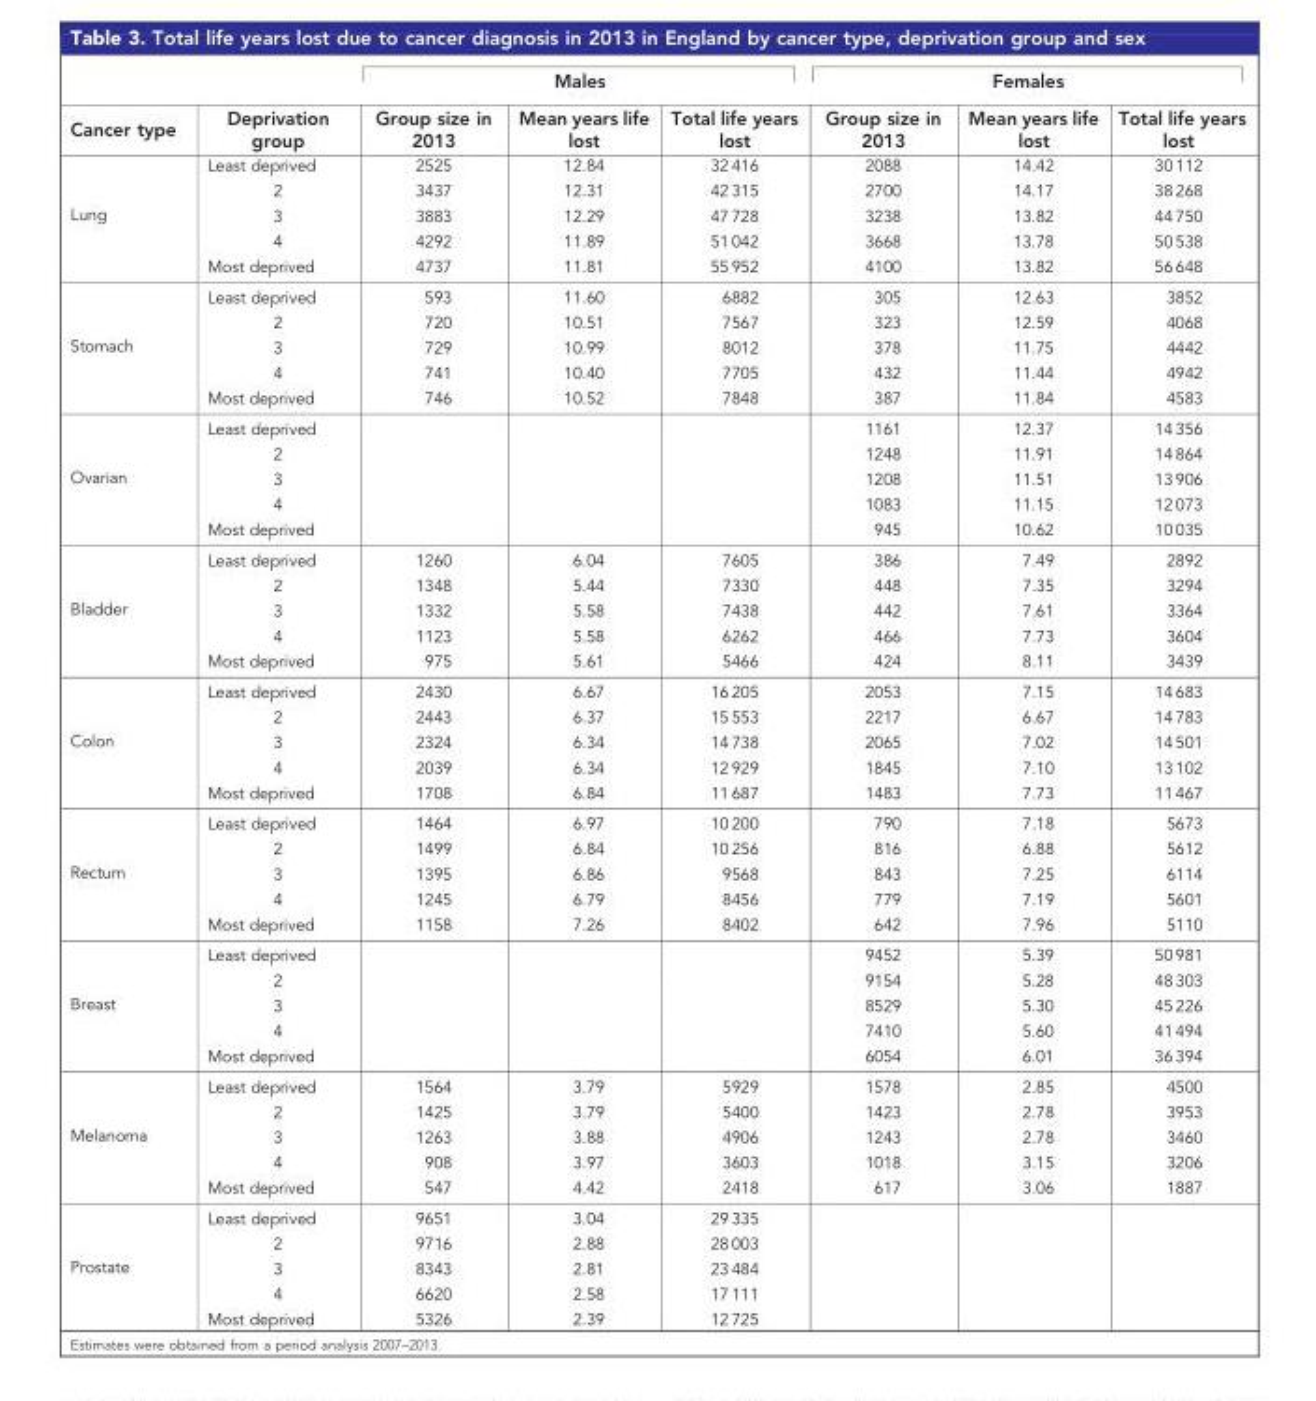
<table><thead><tr><td rowspan="2">Cancer type</td><td rowspan="2">Deprivation group</td><td colspan="3">Males</td><td colspan="3">Females</td></tr><tr><td>Group size in 2013</td><td>Mean years life lost</td><td>Total life years lost</td><td>Group size in 2013</td><td>Mean years life lost</td><td>Total life years lost</td></tr></thead><tbody><tr><td rowspan="5">Lung</td><td>Least deprived</td><td>2525</td><td>12.84</td><td>32 416</td><td>2088</td><td>14.42</td><td>30 112</td></tr><tr><td>2</td><td>3437</td><td>12.31</td><td>42 315</td><td>2700</td><td>14.17</td><td>38 268</td></tr><tr><td>3</td><td>3883</td><td>12.29</td><td>47 728</td><td>3238</td><td>13.82</td><td>44 750</td></tr><tr><td>4</td><td>4292</td><td>11.89</td><td>51 042</td><td>3668</td><td>13.78</td><td>50 538</td></tr><tr><td>Most deprived</td><td>4737</td><td>11.81</td><td>55 952</td><td>4100</td><td>13.82</td><td>56 648</td></tr><tr><td rowspan="5">Stomach</td><td>Least deprived</td><td>593</td><td>11.60</td><td>6882</td><td>305</td><td>12.63</td><td>3852</td></tr><tr><td>2</td><td>720</td><td>10.51</td><td>7567</td><td>323</td><td>12.59</td><td>4068</td></tr><tr><td>3</td><td>729</td><td>10.99</td><td>8012</td><td>378</td><td>11.75</td><td>4442</td></tr><tr><td>4</td><td>741</td><td>10.40</td><td>7705</td><td>432</td><td>11.44</td><td>4942</td></tr><tr><td>Most deprived</td><td>746</td><td>10.52</td><td>7848</td><td>387</td><td>11.84</td><td>4583</td></tr><tr><td rowspan="5">Ovarian</td><td>Least deprived</td><td></td><td></td><td></td><td>1161</td><td>12.37</td><td>14 356</td></tr><tr><td>2</td><td></td><td></td><td></td><td>1248</td><td>11.91</td><td>14 864</td></tr><tr><td>3</td><td></td><td></td><td></td><td>1208</td><td>11.51</td><td>13 906</td></tr><tr><td>4</td><td></td><td></td><td></td><td>1083</td><td>11.15</td><td>12 073</td></tr><tr><td>Most deprived</td><td></td><td></td><td></td><td>945</td><td>10.62</td><td>10 035</td></tr><tr><td rowspan="5">Bladder</td><td>Least deprived</td><td>1260</td><td>6.04</td><td>7605</td><td>386</td><td>7.49</td><td>2892</td></tr><tr><td>2</td><td>1348</td><td>5.44</td><td>7330</td><td>448</td><td>7.35</td><td>3294</td></tr><tr><td>3</td><td>1332</td><td>5.58</td><td>7438</td><td>442</td><td>7.61</td><td>3364</td></tr><tr><td>4</td><td>1123</td><td>5.58</td><td>6262</td><td>466</td><td>7.73</td><td>3604</td></tr><tr><td>Most deprived</td><td>975</td><td>5.61</td><td>5466</td><td>424</td><td>8.11</td><td>3439</td></tr><tr><td rowspan="5">Colon</td><td>Least deprived</td><td>2430</td><td>6.67</td><td>16 205</td><td>2053</td><td>7.15</td><td>14 683</td></tr><tr><td>2</td><td>2443</td><td>6.37</td><td>15 553</td><td>2217</td><td>6.67</td><td>14 783</td></tr><tr><td>3</td><td>2324</td><td>6.34</td><td>14 738</td><td>2065</td><td>7.02</td><td>14 501</td></tr><tr><td>4</td><td>2039</td><td>6.34</td><td>12 929</td><td>1845</td><td>7.10</td><td>13 102</td></tr><tr><td>Most deprived</td><td>1708</td><td>6.84</td><td>11 687</td><td>1483</td><td>7.73</td><td>11 467</td></tr><tr><td rowspan="5">Rectum</td><td>Least deprived</td><td>1464</td><td>6.97</td><td>10 200</td><td>790</td><td>7.18</td><td>5673</td></tr><tr><td>2</td><td>1499</td><td>6.84</td><td>10 256</td><td>816</td><td>6.88</td><td>5612</td></tr><tr><td>3</td><td>1395</td><td>6.86</td><td>9568</td><td>843</td><td>7.25</td><td>6114</td></tr><tr><td>4</td><td>1245</td><td>6.79</td><td>8456</td><td>779</td><td>7.19</td><td>5601</td></tr><tr><td>Most deprived</td><td>1158</td><td>7.26</td><td>8402</td><td>642</td><td>7.96</td><td>5110</td></tr><tr><td rowspan="5">Breast</td><td>Least deprived</td><td></td><td></td><td></td><td>9452</td><td>5.39</td><td>50 981</td></tr><tr><td>2</td><td></td><td></td><td></td><td>9154</td><td>5.28</td><td>48 303</td></tr><tr><td>3</td><td></td><td></td><td></td><td>8529</td><td>5.30</td><td>45 226</td></tr><tr><td>4</td><td></td><td></td><td></td><td>7410</td><td>5.60</td><td>41 494</td></tr><tr><td>Most deprived</td><td></td><td></td><td></td><td>6054</td><td>6.01</td><td>36 394</td></tr><tr><td rowspan="5">Melanoma</td><td>Least deprived</td><td>1564</td><td>3.79</td><td>5929</td><td>1578</td><td>2.85</td><td>4500</td></tr><tr><td>2</td><td>1425</td><td>3.79</td><td>5400</td><td>1423</td><td>2.78</td><td>3953</td></tr><tr><td>3</td><td>1263</td><td>3.88</td><td>4906</td><td>1243</td><td>2.78</td><td>3460</td></tr><tr><td>4</td><td>908</td><td>3.97</td><td>3603</td><td>1018</td><td>3.15</td><td>3206</td></tr><tr><td>Most deprived</td><td>547</td><td>4.42</td><td>2418</td><td>617</td><td>3.06</td><td>1887</td></tr><tr><td rowspan="5">Prostate</td><td>Least deprived</td><td>9651</td><td>3.04</td><td>29 335</td><td></td><td></td><td></td></tr><tr><td>2</td><td>9716</td><td>2.88</td><td>28 003</td><td></td><td></td><td></td></tr><tr><td>3</td><td>8343</td><td>2.81</td><td>23 484</td><td></td><td></td><td></td></tr><tr><td>4</td><td>6620</td><td>2.58</td><td>17 111</td><td></td><td></td><td></td></tr><tr><td>Most deprived</td><td>5326</td><td>2.39</td><td>12 725</td><td></td><td></td><td></td></tr></tbody></table>